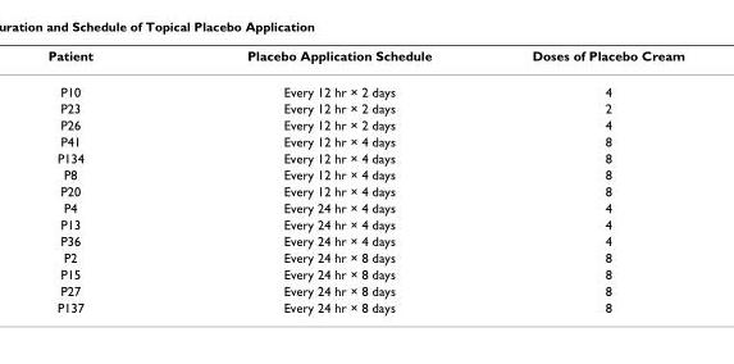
<table><thead><tr><td>Patient</td><td>Placebo Application Schedule</td><td>Doses of Placebo Cream</td></tr></thead><tbody><tr><td>P10</td><td>Every 12 hr × 2 days</td><td>4</td></tr><tr><td>P23</td><td>Every 12 hr × 2 days</td><td>2</td></tr><tr><td>P26</td><td>Every 12 hr × 2 days</td><td>4</td></tr><tr><td>P41</td><td>Every 12 hr × 4 days</td><td>8</td></tr><tr><td>P134</td><td>Every 12 hr × 4 days</td><td>8</td></tr><tr><td>P8</td><td>Every 12 hr × 4 days</td><td>8</td></tr><tr><td>P20</td><td>Every 12 hr × 4 days</td><td>8</td></tr><tr><td>P4</td><td>Every 24 hr × 4 days</td><td>4</td></tr><tr><td>P13</td><td>Every 24 hr × 4 days</td><td>4</td></tr><tr><td>P36</td><td>Every 24 hr × 4 days</td><td>4</td></tr><tr><td>P2</td><td>Every 24 hr × 8 days</td><td>8</td></tr><tr><td>P15</td><td>Every 24 hr × 8 days</td><td>8</td></tr><tr><td>P27</td><td>Every 24 hr × 8 days</td><td>8</td></tr><tr><td>P137</td><td>Every 24 hr × 8 days</td><td>8</td></tr></tbody></table>